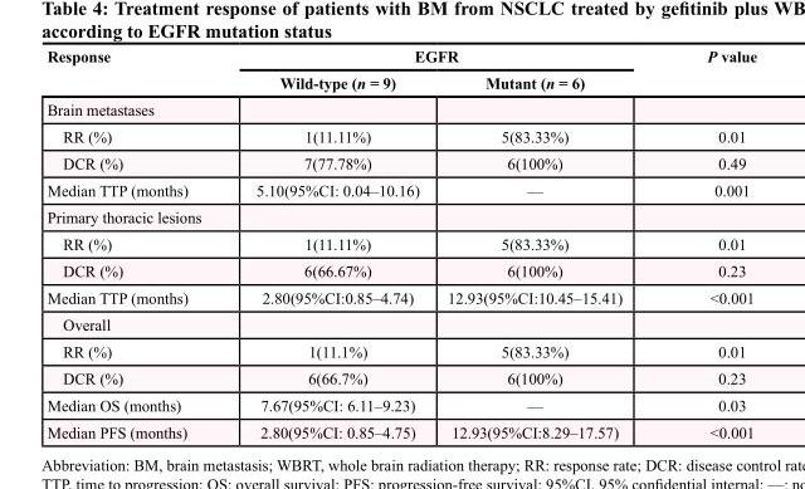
<table><thead><tr><td rowspan="2">Response</td><td colspan="2">EGFR</td><td rowspan="2">P value</td></tr><tr><td>Wild-type (n = 9)</td><td>Mutant (n = 6)</td></tr></thead><tbody><tr><td colspan="4">Brain metastases</td></tr><tr><td>RR (%)</td><td>1(11.11%)</td><td>5(83.33%)</td><td>0.01</td></tr><tr><td>DCR (%)</td><td>7(77.78%)</td><td>6(100%)</td><td>0.49</td></tr><tr><td>Median TTP (months)</td><td>5.10(95%CI: 0.04–10.16)</td><td>—</td><td>0.001</td></tr><tr><td colspan="4">Primary thoracic lesions</td></tr><tr><td>RR (%)</td><td>1(11.11%)</td><td>5(83.33%)</td><td>0.01</td></tr><tr><td>DCR (%)</td><td>6(66.67%)</td><td>6(100%)</td><td>0.23</td></tr><tr><td>Median TTP (months)</td><td>2.80(95%CI:0.85–4.74)</td><td>12.93(95%CI:10.45–15.41)</td><td>&lt;0.001</td></tr><tr><td colspan="4">Overall</td></tr><tr><td>RR (%)</td><td>1(11.1%)</td><td>5(83.33%)</td><td>0.01</td></tr><tr><td>DCR (%)</td><td>6(66.7%)</td><td>6(100%)</td><td>0.23</td></tr><tr><td>Median OS (months)</td><td>7.67(95%CI: 6.11–9.23)</td><td>—</td><td>0.03</td></tr><tr><td>Median PFS (months)</td><td>2.80(95%CI: 0.85–4.75)</td><td>12.93(95%CI:8.29–17.57)</td><td>&lt;0.001</td></tr></tbody></table>